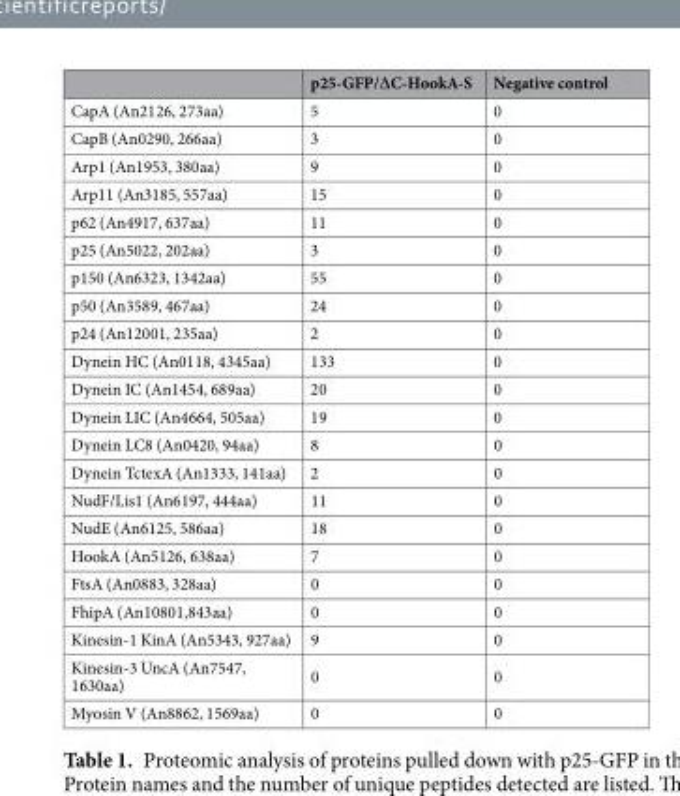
<table><thead><tr><td></td><td>p25-GFP/∆C-HookA-S</td><td>Negative control</td></tr></thead><tbody><tr><td>CapA (An2126, 273aa)</td><td>5</td><td>0</td></tr><tr><td>CapB (An0290, 266aa)</td><td>3</td><td>0</td></tr><tr><td>Arp1 (An1953, 380aa)</td><td>9</td><td>0</td></tr><tr><td>Arp11 (An3185, 557aa)</td><td>15</td><td>0</td></tr><tr><td>p62 (An4917, 637aa)</td><td>11</td><td>0</td></tr><tr><td>p25 (An5022, 202aa)</td><td>3</td><td>0</td></tr><tr><td>p150 (An6323, 1342aa)</td><td>55</td><td>0</td></tr><tr><td>p50 (An3589, 467aa)</td><td>24</td><td>0</td></tr><tr><td>p24 (An12001, 235aa)</td><td>2</td><td>0</td></tr><tr><td>Dynein HC (An0118, 4345aa)</td><td>133</td><td>0</td></tr><tr><td>Dynein IC (An1454, 689aa)</td><td>20</td><td>0</td></tr><tr><td>Dynein LIC (An4664, 505aa)</td><td>19</td><td>0</td></tr><tr><td>Dynein LC8 (An0420, 94aa)</td><td>8</td><td>0</td></tr><tr><td>Dynein TctexA (An1333, 141aa)</td><td>2</td><td>0</td></tr><tr><td>NudF/Lis1 (An6197, 444aa)</td><td>11</td><td>0</td></tr><tr><td>NudE (An6125, 586aa)</td><td>18</td><td>0</td></tr><tr><td>HookA (An5126, 638aa)</td><td>7</td><td>0</td></tr><tr><td>FtsA (An0883, 328aa)</td><td>0</td><td>0</td></tr><tr><td>FhipA (An10801,843aa)</td><td>0</td><td>0</td></tr><tr><td>Kinesin-1 KinA (An5343, 927aa)</td><td>9</td><td>0</td></tr><tr><td>Kinesin-3 UncA (An7547, 1630aa)</td><td>0</td><td>0</td></tr><tr><td>Myosin V (An8862, 1569aa)</td><td>0</td><td>0</td></tr></tbody></table>